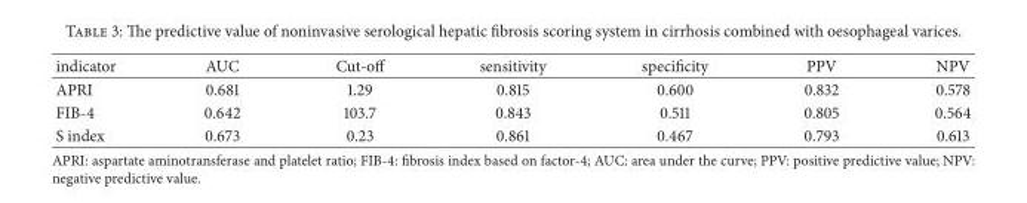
<table><thead><tr><td>indicator</td><td>AUC</td><td>Cut-off</td><td>sensitivity</td><td>specificity</td><td>PPV</td><td>NPV</td></tr></thead><tbody><tr><td>APRI</td><td>0.681</td><td>1.29</td><td>0.815</td><td>0.600</td><td>0.832</td><td>0.578</td></tr><tr><td>FIB-4</td><td>0.642</td><td>103.7</td><td>0.843</td><td>0.511</td><td>0.805</td><td>0.564</td></tr><tr><td>S index</td><td>0.673</td><td>0.23</td><td>0.861</td><td>0.467</td><td>0.793</td><td>0.613</td></tr></tbody></table>